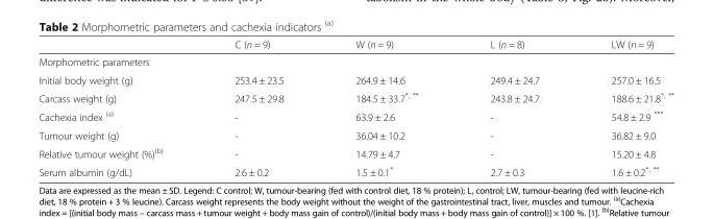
<table><thead><tr><td></td><td>C (n = 9)</td><td>W (n = 9)</td><td>L (n = 8)</td><td>LW (n = 9)</td></tr></thead><tbody><tr><td colspan="5">Morphometric parameters</td></tr><tr><td>Initial body weight (g)</td><td>253.4 ± 23.5</td><td>264.9 ± 14.6</td><td>249.4 ± 24.7</td><td>257.0 ± 16.5</td></tr><tr><td>Carcass weight (g)</td><td>247.5 ± 29.8</td><td>184.5 ± 33.7<sup>*, **</sup></td><td>243.8 ± 24.7</td><td>188.6 ± 21.8<sup>*, **</sup></td></tr><tr><td>Cachexia index <sup>(a)</sup></td><td>-</td><td>63.9 ± 2.6</td><td>-</td><td>54.8 ± 2.9 ***</td></tr><tr><td>Tumour weight (g)</td><td>-</td><td>36.04 ± 10.2</td><td>-</td><td>36.82 ± 9.0</td></tr><tr><td>Relative tumour weight (%)<sup>(b)</sup></td><td>-</td><td>14.79 ± 4.7</td><td>-</td><td>15.20 ± 4.8</td></tr><tr><td>Serum albumin (g/dL)</td><td>2.6 ± 0.2</td><td>1.5 ± 0.1*</td><td>2.7 ± 0.3</td><td>1.6 ± 0.2<sup>*, **</sup></td></tr></tbody></table>